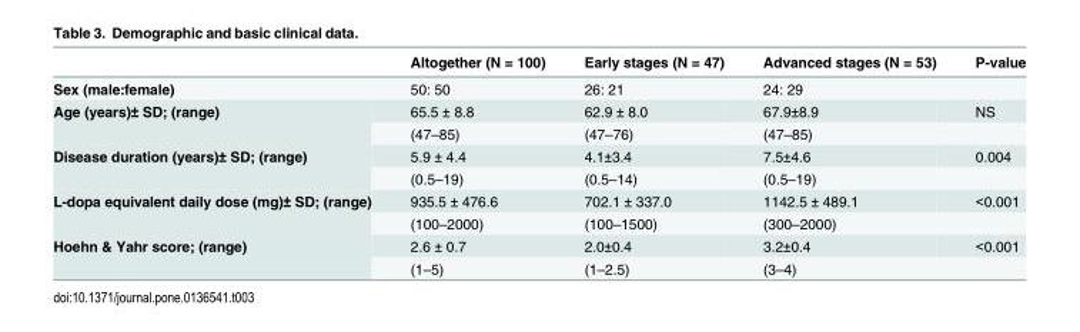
<table><thead><tr><td></td><td>Altogether (N = 100)</td><td>Early stages (N = 47)</td><td>Advanced stages (N = 53)</td><td>P-value</td></tr></thead><tbody><tr><td>Sex (male:female)</td><td>50: 50</td><td>26: 21</td><td>24: 29</td><td></td></tr><tr><td rowspan="2">Age (years)± SD; (range)</td><td>65.5 ± 8.8</td><td>62.9 ± 8.0</td><td>67.9±8.9</td><td>NS</td></tr><tr><td>(47–85)</td><td>(47–76)</td><td>(47–85)</td><td></td></tr><tr><td rowspan="2">Disease duration (years)± SD; (range)</td><td>5.9 ± 4.4</td><td>4.1±3.4</td><td>7.5±4.6</td><td>0.004</td></tr><tr><td>(0.5–19)</td><td>(0.5–14)</td><td>(0.5–19)</td><td></td></tr><tr><td rowspan="2">L-dopa equivalent daily dose (mg)± SD; (range)</td><td>935.5 ± 476.6</td><td>702.1 ± 337.0</td><td>1142.5 ± 489.1</td><td>&lt;0.001</td></tr><tr><td>(100–2000)</td><td>(100–1500)</td><td>(300–2000)</td><td></td></tr><tr><td rowspan="2">Hoehn &amp; Yahr score; (range)</td><td>2.6 ± 0.7</td><td>2.0±0.4</td><td>3.2±0.4</td><td>&lt;0.001</td></tr><tr><td>(1–5)</td><td>(1–2.5)</td><td>(3–4)</td><td></td></tr></tbody></table>